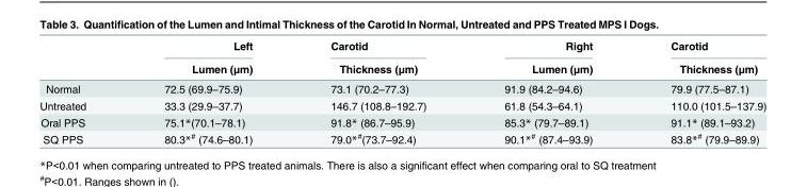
<table><thead><tr><td rowspan="2"></td><td rowspan="2">Left Lumen (μm)</td><td rowspan="2">Carotid Thickness (μm)</td><td rowspan="2">Right Lumen (μm)</td><td rowspan="2">Carotid Thickness (μm)</td></tr><tr></tr></thead><tbody><tr><td>Normal</td><td>72.5 (69.9–75.9)</td><td>73.1 (70.2–77.3)</td><td>91.9 (84.2–94.6)</td><td>79.9 (77.5–87.1)</td></tr><tr><td>Untreated</td><td>33.3 (29.9–37.7)</td><td>146.7 (108.8–192.7)</td><td>61.8 (54.3–64.1)</td><td>110.0 (101.5–137.9)</td></tr><tr><td>Oral PPS</td><td>75.1*(70.1–78.1)</td><td>91.8* (86.7–95.9)</td><td>85.3* (79.7–89.1)</td><td>91.1* (89.1–93.2)</td></tr><tr><td>SQ PPS</td><td>80.3*<sup>#</sup> (74.6–80.1)</td><td>79.0*<sup>#</sup>(73.7–92.4)</td><td>90.1*<sup>#</sup> (87.4–93.9)</td><td>83.8*<sup>#</sup> (79.9–89.9)</td></tr></tbody></table>